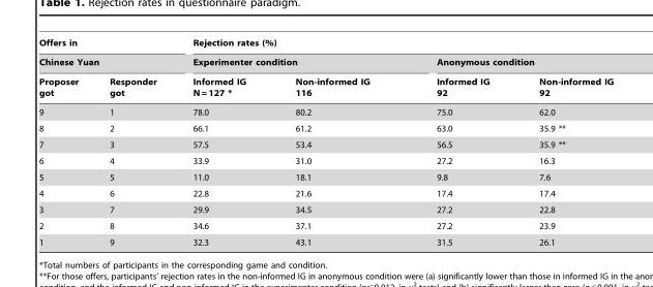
<table><thead><tr><td rowspan="2" colspan="2">Offers in Chinese Yuan</td><td colspan="4">Rejection rates (%)</td></tr><tr><td colspan="2">Experimenter condition</td><td colspan="2">Anonymous condition</td></tr><tr><td>Proposer got</td><td>Responder got</td><td>Informed IG N = 127 *</td><td>Non-informed IG 116</td><td>Informed IG 92</td><td>Non-informed IG 92</td></tr></thead><tbody><tr><td>9</td><td>1</td><td>78.0</td><td>80.2</td><td>75.0</td><td>62.0</td></tr><tr><td>8</td><td>2</td><td>66.1</td><td>61.2</td><td>63.0</td><td>35.9 **</td></tr><tr><td>7</td><td>3</td><td>57.5</td><td>53.4</td><td>56.5</td><td>35.9 **</td></tr><tr><td>6</td><td>4</td><td>33.9</td><td>31.0</td><td>27.2</td><td>16.3</td></tr><tr><td>5</td><td>5</td><td>11.0</td><td>18.1</td><td>9.8</td><td>7.6</td></tr><tr><td>4</td><td>6</td><td>22.8</td><td>21.6</td><td>17.4</td><td>17.4</td></tr><tr><td>3</td><td>7</td><td>29.9</td><td>34.5</td><td>27.2</td><td>22.8</td></tr><tr><td>2</td><td>8</td><td>34.6</td><td>37.1</td><td>27.2</td><td>23.9</td></tr><tr><td>1</td><td>9</td><td>32.3</td><td>43.1</td><td>31.5</td><td>26.1</td></tr></tbody></table>